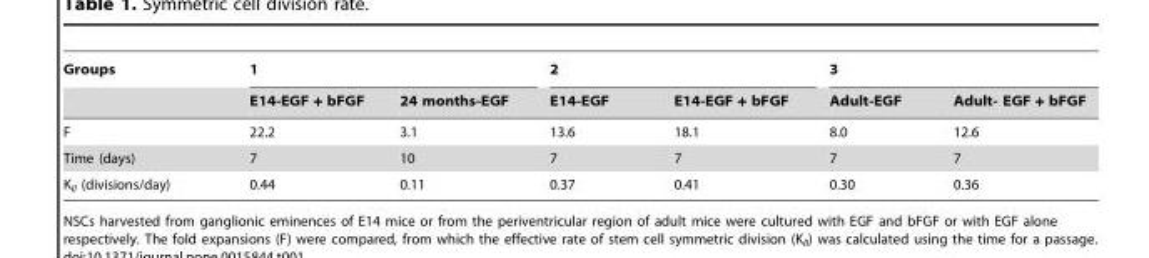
<table><thead><tr><td rowspan="2">Groups</td><td colspan="2">1</td><td colspan="2">2</td><td colspan="2">3</td></tr><tr><td>E14-EGF + bFGF</td><td>24 months-EGF</td><td>E14-EGF</td><td>E14-EGF + bFGF</td><td>Adult-EGF</td><td>Adult- EGF + bFGF</td></tr></thead><tbody><tr><td>F</td><td>22.2</td><td>3.1</td><td>13.6</td><td>18.1</td><td>8.0</td><td>12.6</td></tr><tr><td>Time (days)</td><td>7</td><td>10</td><td>7</td><td>7</td><td>7</td><td>7</td></tr><tr><td>K<sub>ll</sub> (divisions/day)</td><td>0.44</td><td>0.11</td><td>0.37</td><td>0.41</td><td>0.30</td><td>0.36</td></tr></tbody></table>